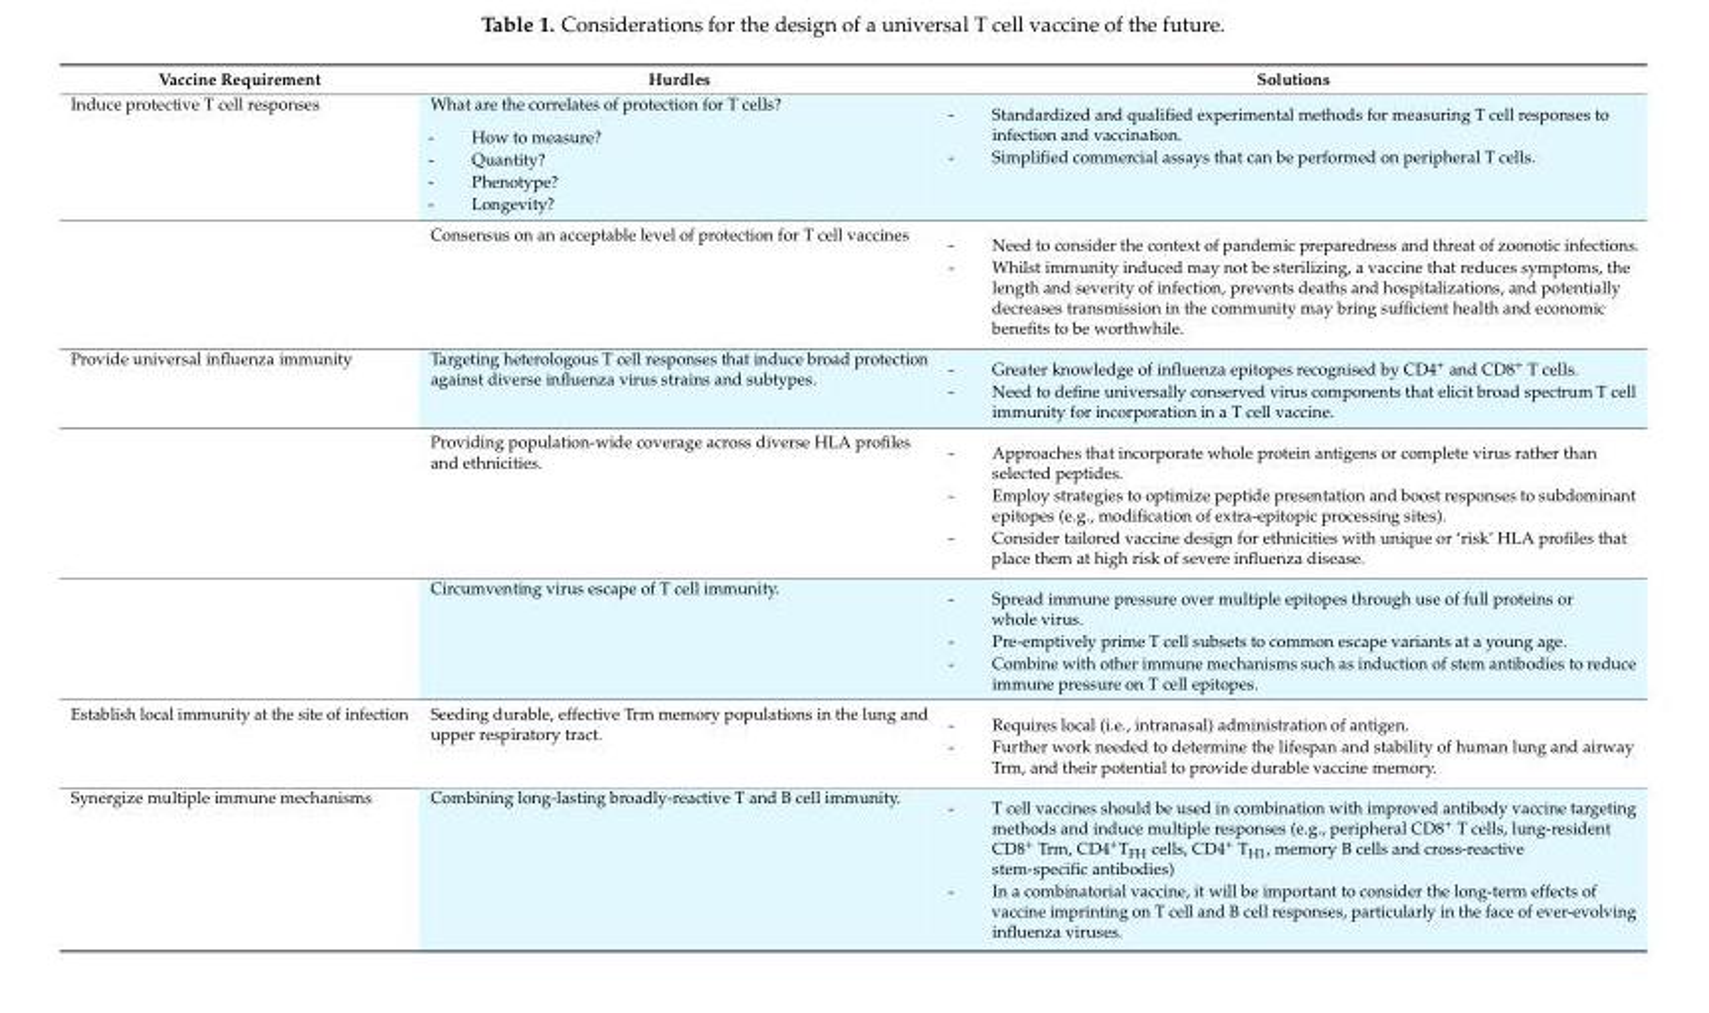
<table><thead><tr><td>Vaccine Requirement</td><td>Hurdles</td><td>Solutions</td></tr></thead><tbody><tr><td rowspan="2">Induce protective T cell responses</td><td>What are the correlates of protection for T cells? - How to measure? - Quantity? - Phenotype? - Longevity?</td><td>- Standardized and qualified experimental methods for measuring T cell responses to infection and vaccination. - Simplified commercial assays that can be performed on peripheral T cells.</td></tr><tr><td>Consensus on an acceptable level of protection for T cell vaccines</td><td>- Need to consider the context of pandemic preparedness and threat of zoonotic infections. - Whilst immunity induced may not be sterilizing, a vaccine that reduces symptoms, the length and severity of infection, prevents deaths and hospitalizations, and potentially decreases transmission in the community may bring sufficient health and economic benefits to be worthwhile.</td></tr><tr><td rowspan="3">Provide universal influenza immunity</td><td>Targeting heterologous T cell responses that induce broad protection against diverse influenza virus strains and subtypes.</td><td>- Greater knowledge of influenza epitopes recognised by CD4<sup>+</sup> and CD8<sup>+</sup> T cells. - Need to define universally conserved virus components that elicit broad spectrum T cell immunity for incorporation in a T cell vaccine.</td></tr><tr><td>Providing population-wide coverage across diverse HLA profiles and ethnicities.</td><td>- Approaches that incorporate whole protein antigens or complete virus rather than selected peptides. - Employ strategies to optimize peptide presentation and boost responses to subdominant epitopes (e.g., modification of extra-epitopic processing sites). - Consider tailored vaccine design for ethnicities with unique or ‘risk’ HLA profiles that place them at high risk of severe influenza disease.</td></tr><tr><td>Circumventing virus escape of T cell immunity.</td><td>- Spread immune pressure over multiple epitopes through use of full proteins or whole virus. - Pre-emptively prime T cell subsets to common escape variants at a young age. - Combine with other immune mechanisms such as induction of stem antibodies to reduce immune pressure on T cell epitopes.</td></tr><tr><td>Establish local immunity at the site of infection</td><td>Seeding durable, effective Trm memory populations in the lung and upper respiratory tract.</td><td>- Requires local (i.e., intranasal) administration of antigen. - Further work needed to determine the lifespan and stability of human lung and airway Trm, and their potential to provide durable vaccine memory.</td></tr><tr><td>Synergize multiple immune mechanisms</td><td>Combining long-lasting broadly-reactive T and B cell immunity.</td><td>- T cell vaccines should be used in combination with improved antibody vaccine targeting methods and induce multiple responses (e.g., peripheral CD8<sup>+</sup> T cells, lung-resident CD8<sup>+</sup> Trm, CD4<sup>+</sup>T<sub>FH</sub> cells, CD4<sup>+</sup> T<sub>H1</sub>, memory B cells and cross-reactive stem-specific antibodies) - In a combinatorial vaccine, it will be important to consider the long-term effects of vaccine imprinting on T cell and B cell responses, particularly in the face of ever-evolving influenza viruses.</td></tr></tbody></table>